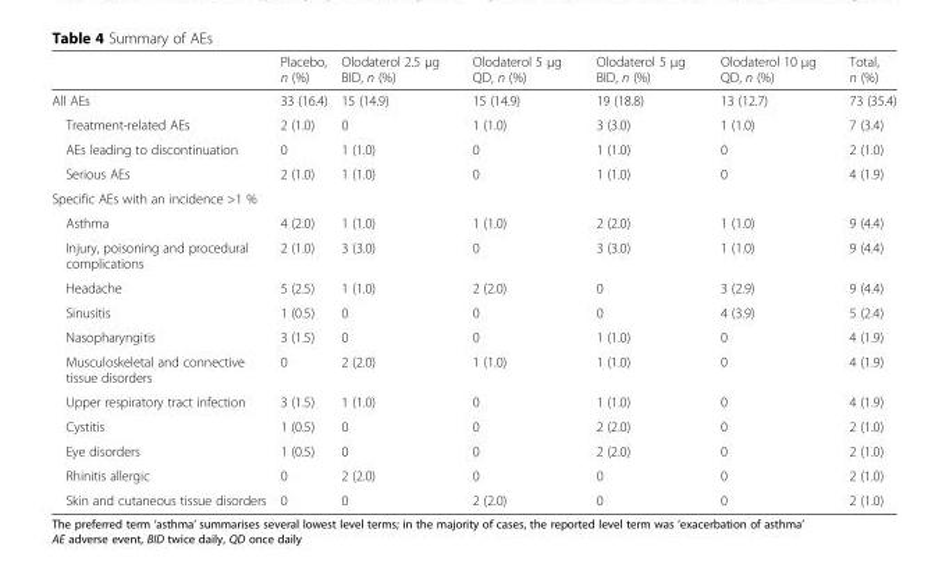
<table><thead><tr><td></td><td>Placebo, n (%)</td><td>Olodaterol 2.5 μg BID, n (%)</td><td>Olodaterol 5 μg QD, n (%)</td><td>Olodaterol 5 μg BID, n (%)</td><td>Olodaterol 10 μg QD, n (%)</td><td>Total, n (%)</td></tr></thead><tbody><tr><td>All AEs</td><td>33 (16.4)</td><td>15 (14.9)</td><td>15 (14.9)</td><td>19 (18.8)</td><td>13 (12.7)</td><td>73 (35.4)</td></tr><tr><td>Treatment-related AEs</td><td>2 (1.0)</td><td>0</td><td>1 (1.0)</td><td>3 (3.0)</td><td>1 (1.0)</td><td>7 (3.4)</td></tr><tr><td>AEs leading to discontinuation</td><td>0</td><td>1 (1.0)</td><td>0</td><td>1 (1.0)</td><td>0</td><td>2 (1.0)</td></tr><tr><td>Serious AEs</td><td>2 (1.0)</td><td>1 (1.0)</td><td>0</td><td>1 (1.0)</td><td>0</td><td>4 (1.9)</td></tr><tr><td colspan="7">Specific AEs with an incidence &gt;1 %</td></tr><tr><td>Asthma</td><td>4 (2.0)</td><td>1 (1.0)</td><td>1 (1.0)</td><td>2 (2.0)</td><td>1 (1.0)</td><td>9 (4.4)</td></tr><tr><td>Injury, poisoning and procedural complications</td><td>2 (1.0)</td><td>3 (3.0)</td><td>0</td><td>3 (3.0)</td><td>1 (1.0)</td><td>9 (4.4)</td></tr><tr><td>Headache</td><td>5 (2.5)</td><td>1 (1.0)</td><td>2 (2.0)</td><td>0</td><td>3 (2.9)</td><td>9 (4.4)</td></tr><tr><td>Sinusitis</td><td>1 (0.5)</td><td>0</td><td>0</td><td>0</td><td>4 (3.9)</td><td>5 (2.4)</td></tr><tr><td>Nasopharyngitis</td><td>3 (1.5)</td><td>0</td><td>0</td><td>1 (1.0)</td><td>0</td><td>4 (1.9)</td></tr><tr><td>Musculoskeletal and connective tissue disorders</td><td>0</td><td>2 (2.0)</td><td>1 (1.0)</td><td>1 (1.0)</td><td>0</td><td>4 (1.9)</td></tr><tr><td>Upper respiratory tract infection</td><td>3 (1.5)</td><td>1 (1.0)</td><td>0</td><td>1 (1.0)</td><td>0</td><td>4 (1.9)</td></tr><tr><td>Cystitis</td><td>1 (0.5)</td><td>0</td><td>0</td><td>2 (2.0)</td><td>0</td><td>2 (1.0)</td></tr><tr><td>Eye disorders</td><td>1 (0.5)</td><td>0</td><td>0</td><td>2 (2.0)</td><td>0</td><td>2 (1.0)</td></tr><tr><td>Rhinitis allergic</td><td>0</td><td>2 (2.0)</td><td>0</td><td>0</td><td>0</td><td>2 (1.0)</td></tr><tr><td>Skin and cutaneous tissue disorders</td><td>0</td><td>0</td><td>2 (2.0)</td><td>0</td><td>0</td><td>2 (1.0)</td></tr></tbody></table>